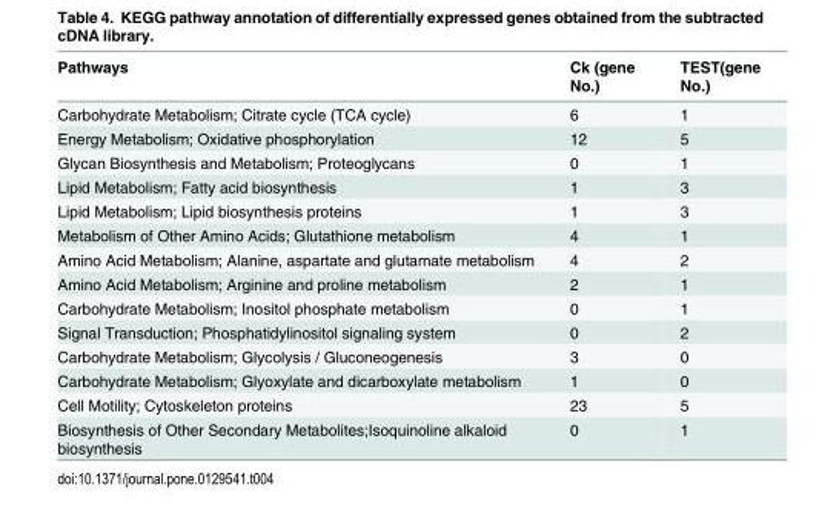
<table><thead><tr><td>Pathways</td><td>Ck (gene No.)</td><td>TEST(gene No.)</td></tr></thead><tbody><tr><td>Carbohydrate Metabolism; Citrate cycle (TCA cycle)</td><td>6</td><td>1</td></tr><tr><td>Energy Metabolism; Oxidative phosphorylation</td><td>12</td><td>5</td></tr><tr><td>Glycan Biosynthesis and Metabolism; Proteoglycans</td><td>0</td><td>1</td></tr><tr><td>Lipid Metabolism; Fatty acid biosynthesis</td><td>1</td><td>3</td></tr><tr><td>Lipid Metabolism; Lipid biosynthesis proteins</td><td>1</td><td>3</td></tr><tr><td>Metabolism of Other Amino Acids; Glutathione metabolism</td><td>4</td><td>1</td></tr><tr><td>Amino Acid Metabolism; Alanine, aspartate and glutamate metabolism</td><td>4</td><td>2</td></tr><tr><td>Amino Acid Metabolism; Arginine and proline metabolism</td><td>2</td><td>1</td></tr><tr><td>Carbohydrate Metabolism; Inositol phosphate metabolism</td><td>0</td><td>1</td></tr><tr><td>Signal Transduction; Phosphatidylinositol signaling system</td><td>0</td><td>2</td></tr><tr><td>Carbohydrate Metabolism; Glycolysis / Gluconeogenesis</td><td>3</td><td>0</td></tr><tr><td>Carbohydrate Metabolism; Glyoxylate and dicarboxylate metabolism</td><td>1</td><td>0</td></tr><tr><td>Cell Motility; Cytoskeleton proteins</td><td>23</td><td>5</td></tr><tr><td>Biosynthesis of Other Secondary Metabolites;Isoquinoline alkaloid biosynthesis</td><td>0</td><td>1</td></tr></tbody></table>